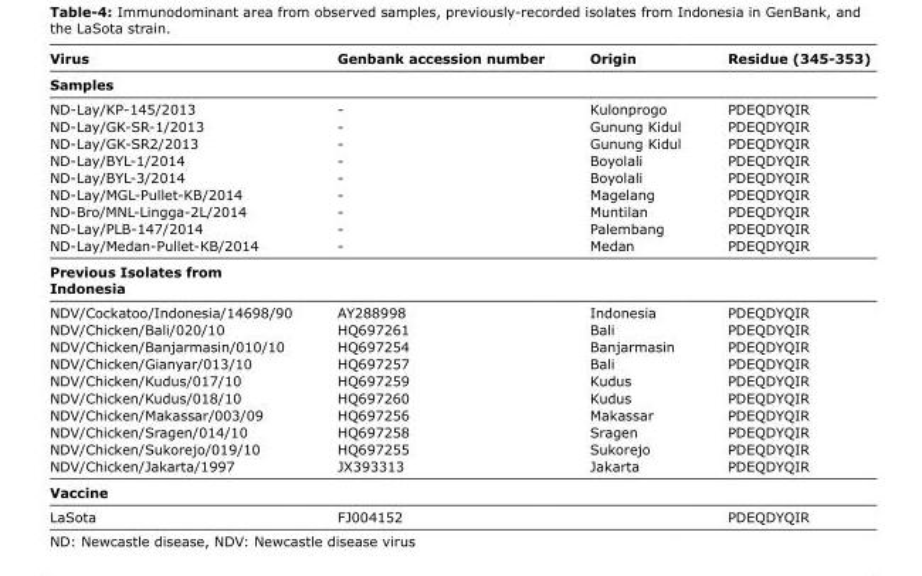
<table><thead><tr><td>Virus</td><td>Genbank accession number</td><td>Origin</td><td>Residue (345-353)</td></tr></thead><tbody><tr><td colspan="4">Samples</td></tr><tr><td>ND-Lay/KP-145/2013</td><td>-</td><td>Kulonprogo</td><td>PDEQDYQIR</td></tr><tr><td>ND-Lay/GK-SR-1/2013</td><td>-</td><td>Gunung Kidul</td><td>PDEQDYQIR</td></tr><tr><td>ND-Lay/GK-SR2/2013</td><td>-</td><td>Gunung Kidul</td><td>PDEQDYQIR</td></tr><tr><td>ND-Lay/BYL-1/2014</td><td>-</td><td>Boyolali</td><td>PDEQDYQIR</td></tr><tr><td>ND-Lay/BYL-3/2014</td><td>-</td><td>Boyolali</td><td>PDEQDYQIR</td></tr><tr><td>ND-Lay/MGL-Pullet-KB/2014</td><td>-</td><td>Magelang</td><td>PDEQDYQIR</td></tr><tr><td>ND-Bro/MNL-Lingga-2L/2014</td><td>-</td><td>Muntilan</td><td>PDEQDYQIR</td></tr><tr><td>ND-Lay/PLB-147/2014</td><td>-</td><td>Palembang</td><td>PDEQDYQIR</td></tr><tr><td>ND-Lay/Medan-Pullet-KB/2014</td><td>-</td><td>Medan</td><td>PDEQDYQIR</td></tr><tr><td colspan="4">Previous Isolates from Indonesia</td></tr><tr><td>NDV/Cockatoo/Indonesia/14698/90</td><td>AY288998</td><td>Indonesia</td><td>PDEQDYQIR</td></tr><tr><td>NDV/Chicken/Bali/020/10</td><td>HQ697261</td><td>Bali</td><td>PDEQDYQIR</td></tr><tr><td>NDV/Chicken/Banjarmasin/010/10</td><td>HQ697254</td><td>Banjarmasin</td><td>PDEQDYQIR</td></tr><tr><td>NDV/Chicken/Gianyar/013/10</td><td>HQ697257</td><td>Bali</td><td>PDEQDYQIR</td></tr><tr><td>NDV/Chicken/Kudus/017/10</td><td>HQ697259</td><td>Kudus</td><td>PDEQDYQIR</td></tr><tr><td>NDV/Chicken/Kudus/018/10</td><td>HQ697260</td><td>Kudus</td><td>PDEQDYQIR</td></tr><tr><td>NDV/Chicken/Makassar/003/09</td><td>HQ697256</td><td>Makassar</td><td>PDEQDYQIR</td></tr><tr><td>NDV/Chicken/Sragen/014/10</td><td>HQ697258</td><td>Sragen</td><td>PDEQDYQIR</td></tr><tr><td>NDV/Chicken/Sukorejo/019/10</td><td>HQ697255</td><td>Sukorejo</td><td>PDEQDYQIR</td></tr><tr><td>NDV/Chicken/Jakarta/1997</td><td>JX393313</td><td>Jakarta</td><td>PDEQDYQIR</td></tr><tr><td colspan="4">Vaccine</td></tr><tr><td>LaSota</td><td>FJ004152</td><td></td><td>PDEQDYQIR</td></tr></tbody></table>